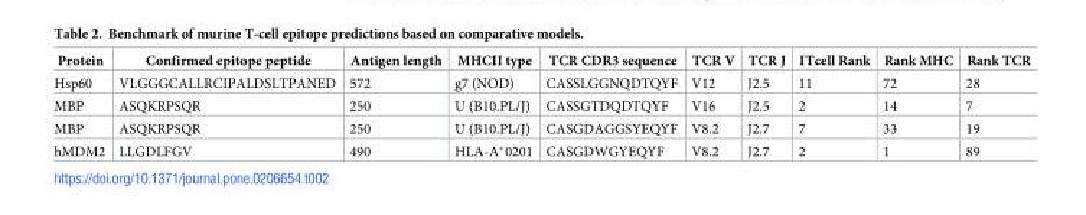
<table><thead><tr><td>Protein</td><td>Confirmed epitope peptide</td><td>Antigen length</td><td>MHCII type</td><td>TCR CDR3 sequence</td><td>TCR V</td><td>TCR J</td><td>ITcell Rank</td><td>Rank MHC</td><td>Rank TCR</td></tr></thead><tbody><tr><td>Hsp60</td><td>VLGGGCALLRCIPALDSLTPANED</td><td>572</td><td>g7 (NOD)</td><td>CASSLGGNQDTQYF</td><td>V12</td><td>J2.5</td><td>11</td><td>72</td><td>28</td></tr><tr><td>MBP</td><td>ASQKRPSQR</td><td>250</td><td>U (B10.PL/J)</td><td>CASSGTDQDTQYF</td><td>V16</td><td>J2.5</td><td>2</td><td>14</td><td>7</td></tr><tr><td>MBP</td><td>ASQKRPSQR</td><td>250</td><td>U (B10.PL/J)</td><td>CASGDAGGSYEQYF</td><td>V8.2</td><td>J2.7</td><td>7</td><td>33</td><td>19</td></tr><tr><td>hMDM2</td><td>LLGDLFGV</td><td>490</td><td>HLA-A*0201</td><td>CASGDWGYEQYF</td><td>V8.2</td><td>J2.7</td><td>2</td><td>1</td><td>89</td></tr></tbody></table>